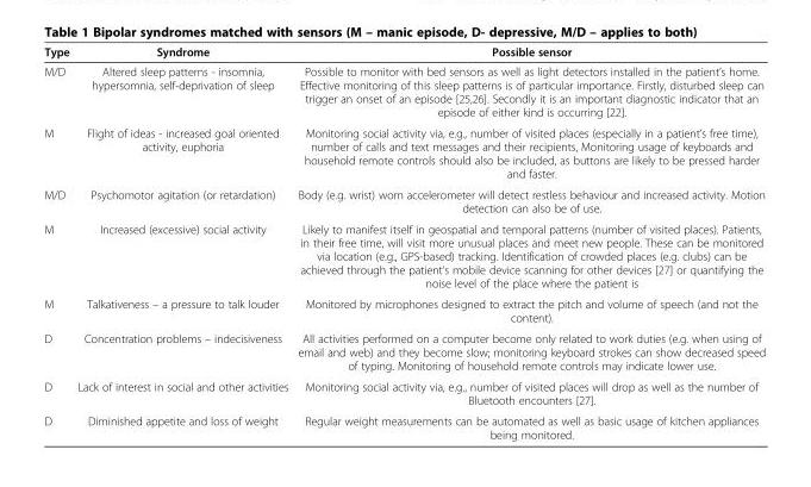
<table><thead><tr><td>Type</td><td>Syndrome</td><td>Possible sensor</td></tr></thead><tbody><tr><td>M/D</td><td>Altered sleep patterns - insomnia, hypersomnia, self-deprivation of sleep</td><td>Possible to monitor with bed sensors as well as light detectors installed in the patient’s home. Effective monitoring of this sleep patterns is of particular importance. Firstly, disturbed sleep can trigger an onset of an episode [25,26]. Secondly it is an important diagnostic indicator that an episode of either kind is occurring [22].</td></tr><tr><td>M</td><td>Flight of ideas - increased goal oriented activity, euphoria</td><td>Monitoring social activity via, e.g., number of visited places (especially in a patient’s free time), number of calls and text messages and their recipients, Monitoring usage of keyboards and household remote controls should also be included, as buttons are likely to be pressed harder and faster.</td></tr><tr><td>M/D</td><td>Psychomotor agitation (or retardation)</td><td>Body (e.g. wrist) worn accelerometer will detect restless behaviour and increased activity. Motion detection can also be of use.</td></tr><tr><td>M</td><td>Increased (excessive) social activity</td><td>Likely to manifest itself in geospatial and temporal patterns (number of visited places). Patients, in their free time, will visit more unusual places and meet new people. These can be monitored via location (e.g., GPS-based) tracking. Identification of crowded places (e.g. clubs) can be achieved through the patient’s mobile device scanning for other devices [27] or quantifying the noise level of the place where the patient is</td></tr><tr><td>M</td><td>Talkativeness – a pressure to talk louder</td><td>Monitored by microphones designed to extract the pitch and volume of speech (and not the content).</td></tr><tr><td>D</td><td>Concentration problems – indecisiveness</td><td>All activities performed on a computer become only related to work duties (e.g. when using of email and web) and they become slow; monitoring keyboard strokes can show decreased speed of typing. Monitoring of household remote controls may indicate lower use.</td></tr><tr><td>D</td><td>Lack of interest in social and other activities</td><td>Monitoring social activity via, e.g., number of visited places will drop as well as the number of Bluetooth encounters [27].</td></tr><tr><td>D</td><td>Diminished appetite and loss of weight</td><td>Regular weight measurements can be automated as well as basic usage of kitchen appliances being monitored.</td></tr></tbody></table>